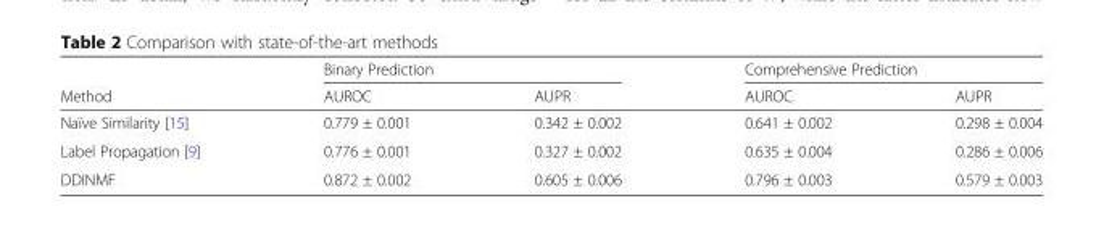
<table><thead><tr><td rowspan="2">Method</td><td colspan="2">Binary Prediction</td><td colspan="2">Comprehensive Prediction</td></tr><tr><td>AUROC</td><td>AUPR</td><td>AUROC</td><td>AUPR</td></tr></thead><tbody><tr><td>Naïve Similarity [15]</td><td>0.779 ± 0.001</td><td>0.342 ± 0.002</td><td>0.641 ± 0.002</td><td>0.298 ± 0.004</td></tr><tr><td>Label Propagation [9]</td><td>0.776 ± 0.001</td><td>0.327 ± 0.002</td><td>0.635 ± 0.004</td><td>0.286 ± 0.006</td></tr><tr><td>DDINMF</td><td>0.872 ± 0.002</td><td>0.605 ± 0.006</td><td>0.796 ± 0.003</td><td>0.579 ± 0.003</td></tr></tbody></table>